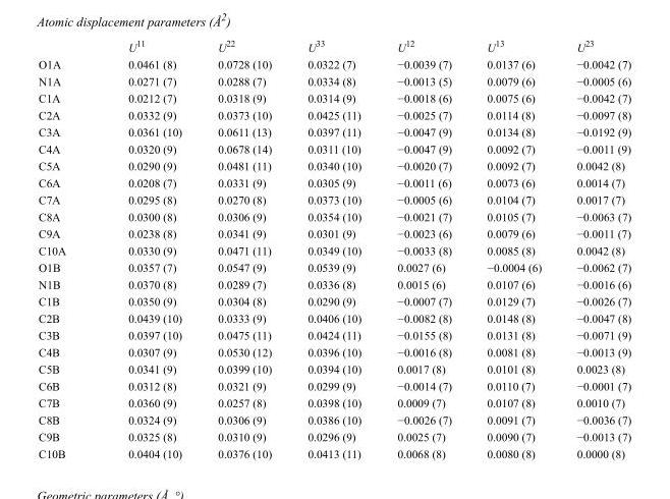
<table><thead><tr><td></td><td>U<sup>11</sup></td><td>U<sup>22</sup></td><td>U<sup>33</sup></td><td>U<sup>12</sup></td><td>U<sup>13</sup></td><td>U<sup>23</sup></td></tr></thead><tbody><tr><td>O1A</td><td>0.0461 (8)</td><td>0.0728 (10)</td><td>0.0322 (7)</td><td>−0.0039 (7)</td><td>0.0137 (6)</td><td>−0.0042 (7)</td></tr><tr><td>N1A</td><td>0.0271 (7)</td><td>0.0288 (7)</td><td>0.0334 (8)</td><td>−0.0013 (5)</td><td>0.0079 (6)</td><td>−0.0005 (6)</td></tr><tr><td>C1A</td><td>0.0212 (7)</td><td>0.0318 (9)</td><td>0.0314 (9)</td><td>−0.0018 (6)</td><td>0.0075 (6)</td><td>−0.0042 (7)</td></tr><tr><td>C2A</td><td>0.0332 (9)</td><td>0.0373 (10)</td><td>0.0425 (11)</td><td>−0.0025 (7)</td><td>0.0114 (8)</td><td>−0.0097 (8)</td></tr><tr><td>C3A</td><td>0.0361 (10)</td><td>0.0611 (13)</td><td>0.0397 (11)</td><td>−0.0047 (9)</td><td>0.0134 (8)</td><td>−0.0192 (9)</td></tr><tr><td>C4A</td><td>0.0320 (9)</td><td>0.0678 (14)</td><td>0.0311 (10)</td><td>−0.0047 (9)</td><td>0.0092 (7)</td><td>−0.0011 (9)</td></tr><tr><td>C5A</td><td>0.0290 (9)</td><td>0.0481 (11)</td><td>0.0340 (10)</td><td>−0.0020 (7)</td><td>0.0092 (7)</td><td>0.0042 (8)</td></tr><tr><td>C6A</td><td>0.0208 (7)</td><td>0.0331 (9)</td><td>0.0305 (9)</td><td>−0.0011 (6)</td><td>0.0073 (6)</td><td>0.0014 (7)</td></tr><tr><td>C7A</td><td>0.0295 (8)</td><td>0.0270 (8)</td><td>0.0373 (10)</td><td>−0.0005 (6)</td><td>0.0104 (7)</td><td>0.0017 (7)</td></tr><tr><td>C8A</td><td>0.0300 (8)</td><td>0.0306 (9)</td><td>0.0354 (10)</td><td>−0.0021 (7)</td><td>0.0105 (7)</td><td>−0.0063 (7)</td></tr><tr><td>C9A</td><td>0.0238 (8)</td><td>0.0341 (9)</td><td>0.0301 (9)</td><td>−0.0023 (6)</td><td>0.0079 (6)</td><td>−0.0011 (7)</td></tr><tr><td>C10A</td><td>0.0330 (9)</td><td>0.0471 (11)</td><td>0.0349 (10)</td><td>−0.0033 (8)</td><td>0.0085 (8)</td><td>0.0042 (8)</td></tr><tr><td>O1B</td><td>0.0357 (7)</td><td>0.0547 (9)</td><td>0.0539 (9)</td><td>0.0027 (6)</td><td>−0.0004 (6)</td><td>−0.0062 (7)</td></tr><tr><td>N1B</td><td>0.0370 (8)</td><td>0.0289 (7)</td><td>0.0336 (8)</td><td>0.0015 (6)</td><td>0.0107 (6)</td><td>−0.0016 (6)</td></tr><tr><td>C1B</td><td>0.0350 (9)</td><td>0.0304 (8)</td><td>0.0290 (9)</td><td>−0.0007 (7)</td><td>0.0129 (7)</td><td>−0.0026 (7)</td></tr><tr><td>C2B</td><td>0.0439 (10)</td><td>0.0333 (9)</td><td>0.0406 (10)</td><td>−0.0082 (8)</td><td>0.0148 (8)</td><td>−0.0047 (8)</td></tr><tr><td>C3B</td><td>0.0397 (10)</td><td>0.0475 (11)</td><td>0.0424 (11)</td><td>−0.0155 (8)</td><td>0.0131 (8)</td><td>−0.0071 (9)</td></tr><tr><td>C4B</td><td>0.0307 (9)</td><td>0.0530 (12)</td><td>0.0396 (10)</td><td>−0.0016 (8)</td><td>0.0081 (8)</td><td>−0.0013 (9)</td></tr><tr><td>C5B</td><td>0.0341 (9)</td><td>0.0399 (10)</td><td>0.0394 (10)</td><td>0.0017 (8)</td><td>0.0101 (8)</td><td>0.0023 (8)</td></tr><tr><td>C6B</td><td>0.0312 (8)</td><td>0.0321 (9)</td><td>0.0299 (9)</td><td>−0.0014 (7)</td><td>0.0110 (7)</td><td>−0.0001 (7)</td></tr><tr><td>C7B</td><td>0.0360 (9)</td><td>0.0257 (8)</td><td>0.0398 (10)</td><td>0.0009 (7)</td><td>0.0107 (8)</td><td>0.0010 (7)</td></tr><tr><td>C8B</td><td>0.0324 (9)</td><td>0.0306 (9)</td><td>0.0386 (10)</td><td>−0.0026 (7)</td><td>0.0091 (7)</td><td>−0.0036 (7)</td></tr><tr><td>C9B</td><td>0.0325 (8)</td><td>0.0310 (9)</td><td>0.0296 (9)</td><td>0.0025 (7)</td><td>0.0090 (7)</td><td>−0.0013 (7)</td></tr><tr><td>C10B</td><td>0.0404 (10)</td><td>0.0376 (10)</td><td>0.0413 (11)</td><td>0.0068 (8)</td><td>0.0080 (8)</td><td>0.0000 (8)</td></tr></tbody></table>